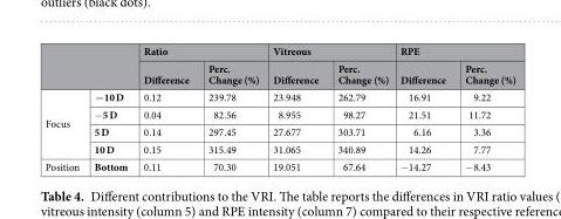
<table><thead><tr><td rowspan="2"></td><td rowspan="2"></td><td colspan="2">Ratio</td><td colspan="2">Vitreous</td><td colspan="2">RPE</td></tr><tr><td>Difference</td><td>Perc. Change (%)</td><td>Difference</td><td>Perc. Change (%)</td><td>Difference</td><td>Perc. Change (%)</td></tr></thead><tbody><tr><td rowspan="4">Focus</td><td>−10 D</td><td>0.12</td><td>239.78</td><td>23.948</td><td>262.79</td><td>16.91</td><td>9.22</td></tr><tr><td>−5 D</td><td>0.04</td><td>82.56</td><td>8.955</td><td>98.27</td><td>21.51</td><td>11.72</td></tr><tr><td>5 D</td><td>0.14</td><td>297.45</td><td>27.677</td><td>303.71</td><td>6.16</td><td>3.36</td></tr><tr><td>10 D</td><td>0.15</td><td>315.49</td><td>31.065</td><td>340.89</td><td>14.26</td><td>7.77</td></tr><tr><td>Position</td><td>Bottom</td><td>0.11</td><td>70.30</td><td>19.051</td><td>67.64</td><td>−14.27</td><td>−8.43</td></tr></tbody></table>